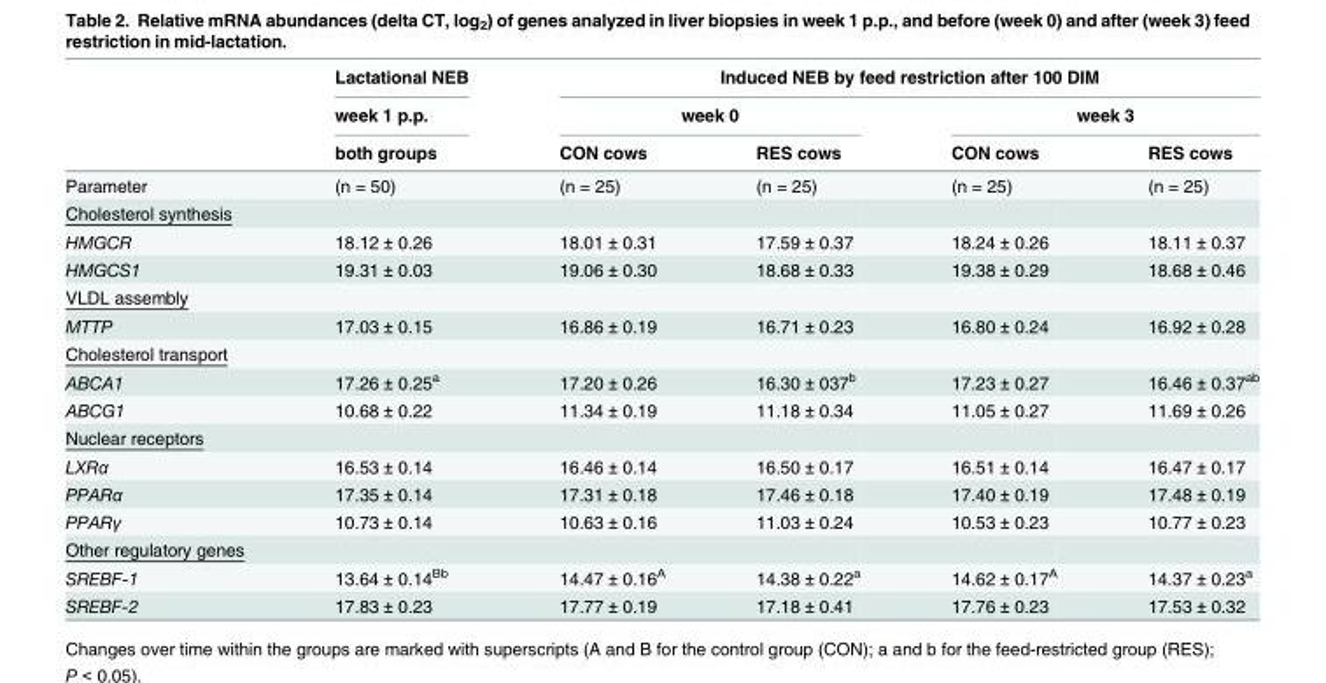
<table><thead><tr><td rowspan="3"></td><td rowspan="3">Lactational NEB week 1 p.p. both groups</td><td colspan="4">Induced NEB by feed restriction after 100 DIM</td></tr><tr><td colspan="2">week 0</td><td colspan="2">week 3</td></tr><tr><td>CON cows</td><td>RES cows</td><td>CON cows</td><td>RES cows</td></tr></thead><tbody><tr><td>Parameter</td><td>(n = 50)</td><td>(n = 25)</td><td>(n = 25)</td><td>(n = 25)</td><td>(n = 25)</td></tr><tr><td colspan="6">Cholesterol synthesis</td></tr><tr><td>HMGCR</td><td>18.12 ± 0.26</td><td>18.01 ± 0.31</td><td>17.59 ± 0.37</td><td>18.24 ± 0.26</td><td>18.11 ± 0.37</td></tr><tr><td>HMGCS1</td><td>19.31 ± 0.03</td><td>19.06 ± 0.30</td><td>18.68 ± 0.33</td><td>19.38 ± 0.29</td><td>18.68 ± 0.46</td></tr><tr><td colspan="6">VLDL assembly</td></tr><tr><td>MTTP</td><td>17.03 ± 0.15</td><td>16.86 ± 0.19</td><td>16.71 ± 0.23</td><td>16.80 ± 0.24</td><td>16.92 ± 0.28</td></tr><tr><td colspan="6">Cholesterol transport</td></tr><tr><td>ABCA1</td><td>17.26 ± 0.25<sup>a</sup></td><td>17.20 ± 0.26</td><td>16.30 ± 037<sup>b</sup></td><td>17.23 ± 0.27</td><td>16.46 ± 0.37<sup>ab</sup></td></tr><tr><td>ABCG1</td><td>10.68 ± 0.22</td><td>11.34 ± 0.19</td><td>11.18 ± 0.34</td><td>11.05 ± 0.27</td><td>11.69 ± 0.26</td></tr><tr><td colspan="6">Nuclear receptors</td></tr><tr><td>LXRα</td><td>16.53 ± 0.14</td><td>16.46 ± 0.14</td><td>16.50 ± 0.17</td><td>16.51 ± 0.14</td><td>16.47 ± 0.17</td></tr><tr><td>PPARα</td><td>17.35 ± 0.14</td><td>17.31 ± 0.18</td><td>17.46 ± 0.18</td><td>17.40 ± 0.19</td><td>17.48 ± 0.19</td></tr><tr><td>PPARγ</td><td>10.73 ± 0.14</td><td>10.63 ± 0.16</td><td>11.03 ± 0.24</td><td>10.53 ± 0.23</td><td>10.77 ± 0.23</td></tr><tr><td colspan="6">Other regulatory genes</td></tr><tr><td>SREBF-1</td><td>13.64 ± 0.14<sup>Bb</sup></td><td>14.47 ± 0.16<sup>A</sup></td><td>14.38 ± 0.22<sup>a</sup></td><td>14.62 ± 0.17<sup>A</sup></td><td>14.37 ± 0.23<sup>a</sup></td></tr><tr><td>SREBF-2</td><td>17.83 ± 0.23</td><td>17.77 ± 0.19</td><td>17.18 ± 0.41</td><td>17.76 ± 0.23</td><td>17.53 ± 0.32</td></tr></tbody></table>